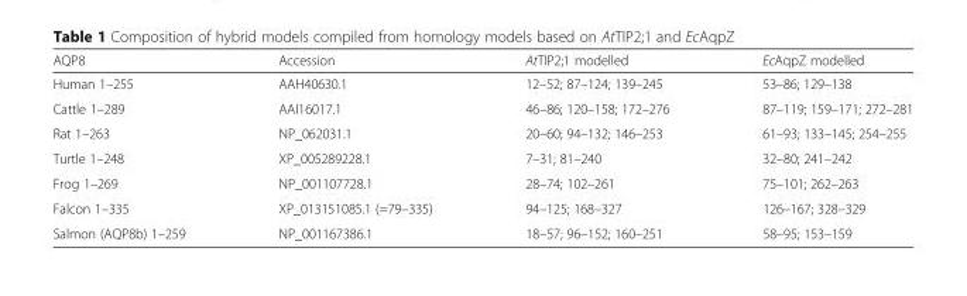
<table><thead><tr><td>AQP8</td><td>Accession</td><td>AtTIP2;1 modelled</td><td>EcAqpZ modelled</td></tr></thead><tbody><tr><td>Human 1–255</td><td>AAH40630.1</td><td>12–52; 87–124; 139–245</td><td>53–86; 129–138</td></tr><tr><td>Cattle 1–289</td><td>AAI16017.1</td><td>46–86; 120–158; 172–276</td><td>87–119; 159–171; 272–281</td></tr><tr><td>Rat 1–263</td><td>NP_062031.1</td><td>20–60; 94–132; 146–253</td><td>61–93; 133–145; 254–255</td></tr><tr><td>Turtle 1–248</td><td>XP_005289228.1</td><td>7–31; 81–240</td><td>32–80; 241–242</td></tr><tr><td>Frog 1–269</td><td>NP_001107728.1</td><td>28–74; 102–261</td><td>75–101; 262–263</td></tr><tr><td>Falcon 1–335</td><td>XP_013151085.1 (=79–335)</td><td>94–125; 168–327</td><td>126–167; 328–329</td></tr><tr><td>Salmon (AQP8b) 1–259</td><td>NP_001167386.1</td><td>18–57; 96–152; 160–251</td><td>58–95; 153–159</td></tr></tbody></table>